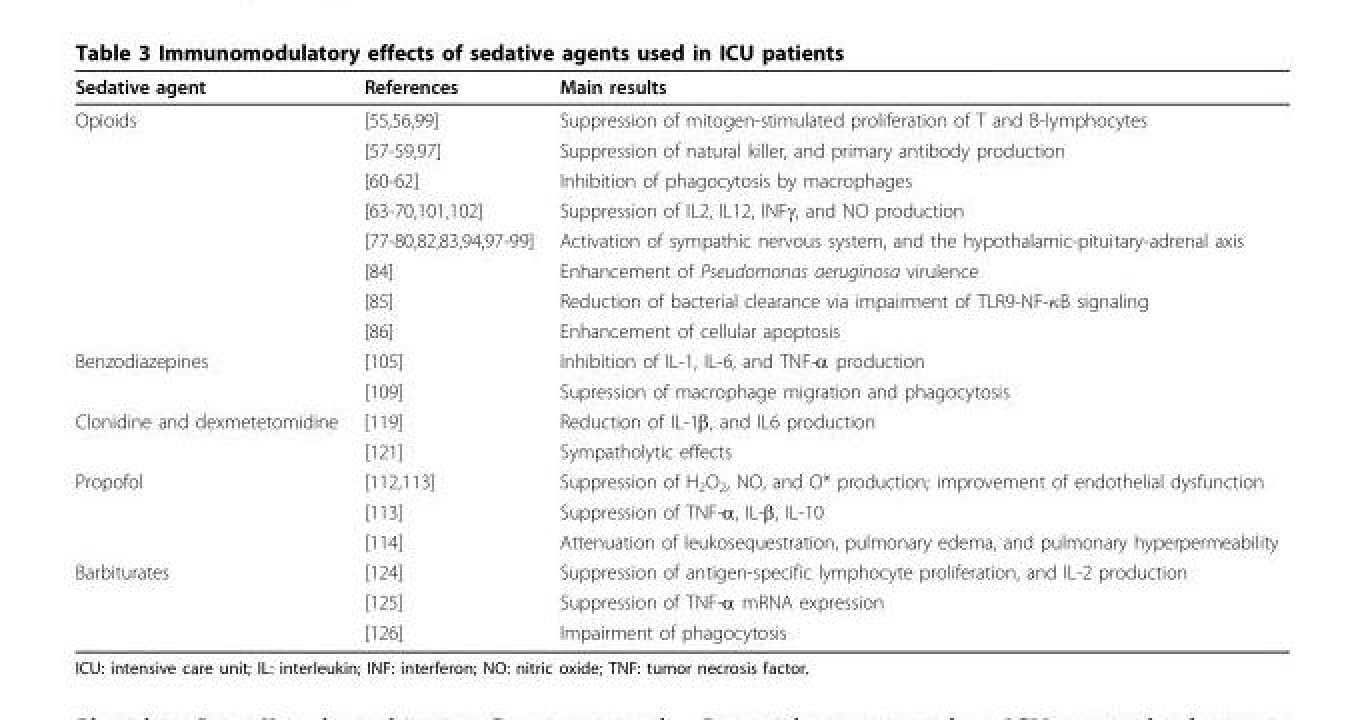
<table><thead><tr><td>Sedative agent</td><td>References</td><td>Main results</td></tr></thead><tbody><tr><td rowspan="8">Opioids</td><td>[55,56,99]</td><td>Suppression of mitogen-stimulated proliferation of T and B-lymphocytes</td></tr><tr><td>[57-59,97]</td><td>Suppression of natural killer, and primary antibody production</td></tr><tr><td>[60-62]</td><td>Inhibition of phagocytosis by macrophages</td></tr><tr><td>[63-70,101,102]</td><td>Suppression of IL2, IL12, INFγ, and NO production</td></tr><tr><td>[77-80,82,83,94,97-99]</td><td>Activation of sympathic nervous system, and the hypothalamic-pituitary-adrenal axis</td></tr><tr><td>[84]</td><td>Enhancement of Pseudomonas aeruginosa virulence</td></tr><tr><td>[85]</td><td>Reduction of bacterial clearance via impairment of TLR9-NF-κB signaling</td></tr><tr><td>[86]</td><td>Enhancement of cellular apoptosis</td></tr><tr><td rowspan="2">Benzodiazepines</td><td>[105]</td><td>Inhibition of IL-1, IL-6, and TNF-α production</td></tr><tr><td>[109]</td><td>Supression of macrophage migration and phagocytosis</td></tr><tr><td rowspan="2">Clonidine and dexmetetomidine</td><td>[119]</td><td>Reduction of IL-1β, and IL6 production</td></tr><tr><td>[121]</td><td>Sympatholytic effects</td></tr><tr><td rowspan="3">Propofol</td><td>[112,113]</td><td>Suppression of H<sub>2</sub>O<sub>2</sub>, NO, and O* production; improvement of endothelial dysfunction</td></tr><tr><td>[113]</td><td>Suppression of TNF-α, IL-β, IL-10</td></tr><tr><td>[114]</td><td>Attenuation of leukosequestration, pulmonary edema, and pulmonary hyperpermeability</td></tr><tr><td rowspan="3">Barbiturates</td><td>[124]</td><td>Suppression of antigen-specific lymphocyte proliferation, and IL-2 production</td></tr><tr><td>[125]</td><td>Suppression of TNF-α mRNA expression</td></tr><tr><td>[126]</td><td>Impairment of phagocytosis</td></tr></tbody></table>